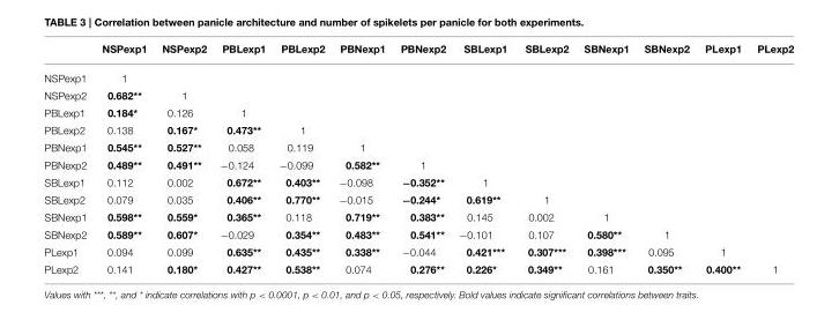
<table><thead><tr><td></td><td>NSPexp1</td><td>NSPexp2</td><td>PBLexp1</td><td>PBLexp2</td><td>PBNexp1</td><td>PBNexp2</td><td>SBLexp1</td><td>SBLexp2</td><td>SBNexp1</td><td>SBNexp2</td><td>PLexp1</td><td>PLexp2</td></tr></thead><tbody><tr><td>NSPexp1</td><td>1</td><td></td><td></td><td></td><td></td><td></td><td></td><td></td><td></td><td></td><td></td><td></td></tr><tr><td>NSPexp2</td><td>0.682**</td><td>1</td><td></td><td></td><td></td><td></td><td></td><td></td><td></td><td></td><td></td><td></td></tr><tr><td>PBLexp1</td><td>0.184*</td><td>0.126</td><td>1</td><td></td><td></td><td></td><td></td><td></td><td></td><td></td><td></td><td></td></tr><tr><td>PBLexp2</td><td>0.138</td><td>0.167*</td><td>0.473**</td><td>1</td><td></td><td></td><td></td><td></td><td></td><td></td><td></td><td></td></tr><tr><td>PBNexp1</td><td>0.545**</td><td>0.527**</td><td>0.058</td><td>0.119</td><td>1</td><td></td><td></td><td></td><td></td><td></td><td></td><td></td></tr><tr><td>PBNexp2</td><td>0.489**</td><td>0.491**</td><td>−0.124</td><td>−0.099</td><td>0.582**</td><td>1</td><td></td><td></td><td></td><td></td><td></td><td></td></tr><tr><td>SBLexp1</td><td>0.112</td><td>0.002</td><td>0.672**</td><td>0.403**</td><td>−0.098</td><td>−0.352**</td><td>1</td><td></td><td></td><td></td><td></td><td></td></tr><tr><td>SBLexp2</td><td>0.079</td><td>0.035</td><td>0.406**</td><td>0.770**</td><td>−0.015</td><td>−0.244*</td><td>0.619**</td><td>1</td><td></td><td></td><td></td><td></td></tr><tr><td>SBNexp1</td><td>0.598**</td><td>0.559*</td><td>0.365**</td><td>0.118</td><td>0.719**</td><td>0.383**</td><td>0.145</td><td>0.002</td><td>1</td><td></td><td></td><td></td></tr><tr><td>SBNexp2</td><td>0.589**</td><td>0.607*</td><td>−0.029</td><td>0.354**</td><td>0.483**</td><td>0.541**</td><td>−0.101</td><td>0.107</td><td>0.580**</td><td>1</td><td></td><td></td></tr><tr><td>PLexp1</td><td>0.094</td><td>0.099</td><td>0.635**</td><td>0.435**</td><td>0.338**</td><td>−0.044</td><td>0.421***</td><td>0.307***</td><td>0.398***</td><td>0.095</td><td>1</td><td></td></tr><tr><td>PLexp2</td><td>0.141</td><td>0.180*</td><td>0.427**</td><td>0.538**</td><td>0.074</td><td>0.276**</td><td>0.226*</td><td>0.349**</td><td>0.161</td><td>0.350**</td><td>0.400**</td><td>1</td></tr></tbody></table>